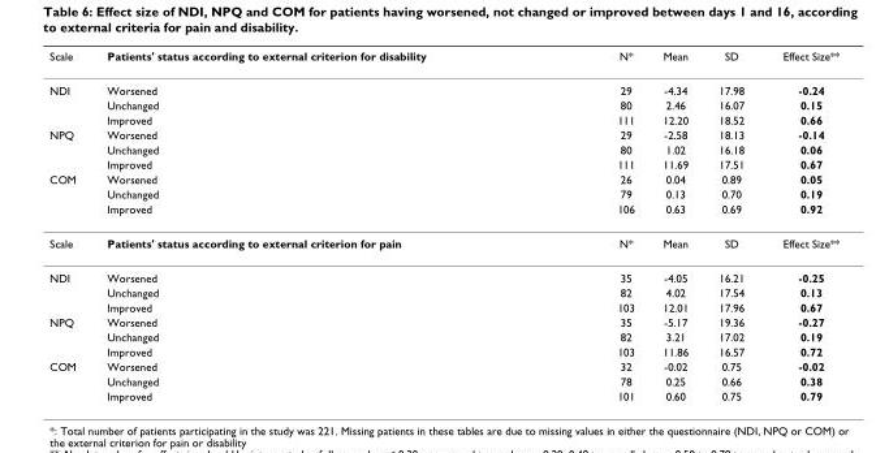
<table><thead><tr><td>Scale</td><td>Patients&#x27; status according to external criterion for disability</td><td>N*</td><td>Mean</td><td>SD</td><td>Effect Size**</td></tr></thead><tbody><tr><td rowspan="3">NDI</td><td>Worsened</td><td>29</td><td>-4.34</td><td>17.98</td><td>-0.24</td></tr><tr><td>Unchanged</td><td>80</td><td>2.46</td><td>16.07</td><td>0.15</td></tr><tr><td>Improved</td><td>111</td><td>12.20</td><td>18.52</td><td>0.66</td></tr><tr><td rowspan="3">NPQ</td><td>Worsened</td><td>29</td><td>-2.58</td><td>18.13</td><td>-0.14</td></tr><tr><td>Unchanged</td><td>80</td><td>1.02</td><td>16.18</td><td>0.06</td></tr><tr><td>Improved</td><td>111</td><td>11.69</td><td>17.51</td><td>0.67</td></tr><tr><td rowspan="3">COM</td><td>Worsened</td><td>26</td><td>0.04</td><td>0.89</td><td>0.05</td></tr><tr><td>Unchanged</td><td>79</td><td>0.13</td><td>0.70</td><td>0.19</td></tr><tr><td>Improved</td><td>106</td><td>0.63</td><td>0.69</td><td>0.92</td></tr><tr><td>Scale</td><td>Patients&#x27; status according to external criterion for pain</td><td>N*</td><td>Mean</td><td>SD</td><td>Effect Size**</td></tr><tr><td rowspan="3">NDI</td><td>Worsened</td><td>35</td><td>-4.05</td><td>16.21</td><td>-0.25</td></tr><tr><td>Unchanged</td><td>82</td><td>4.02</td><td>17.54</td><td>0.13</td></tr><tr><td>Improved</td><td>103</td><td>12.01</td><td>17.96</td><td>0.67</td></tr><tr><td rowspan="3">NPQ</td><td>Worsened</td><td>35</td><td>-5.17</td><td>19.36</td><td>-0.27</td></tr><tr><td>Unchanged</td><td>82</td><td>3.21</td><td>17.02</td><td>0.19</td></tr><tr><td>Improved</td><td>103</td><td>11.86</td><td>16.57</td><td>0.72</td></tr><tr><td rowspan="3">COM</td><td>Worsened</td><td>32</td><td>-0.02</td><td>0.75</td><td>-0.02</td></tr><tr><td>Unchanged</td><td>78</td><td>0.25</td><td>0.66</td><td>0.38</td></tr><tr><td>Improved</td><td>101</td><td>0.60</td><td>0.75</td><td>0.79</td></tr></tbody></table>